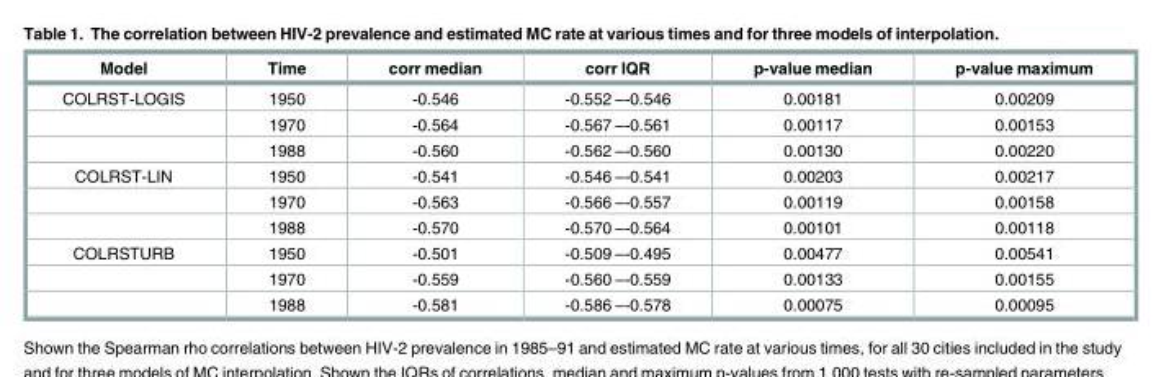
<table><thead><tr><td>Model</td><td>Time</td><td>corr median</td><td>corr IQR</td><td>p-value median</td><td>p-value maximum</td></tr></thead><tbody><tr><td rowspan="3">COLRST-LOGIS</td><td>1950</td><td>-0.546</td><td>-0.552 –-0.546</td><td>0.00181</td><td>0.00209</td></tr><tr><td>1970</td><td>-0.564</td><td>-0.567 –-0.561</td><td>0.00117</td><td>0.00153</td></tr><tr><td>1988</td><td>-0.560</td><td>-0.562 –-0.560</td><td>0.00130</td><td>0.00220</td></tr><tr><td rowspan="3">COLRST-LIN</td><td>1950</td><td>-0.541</td><td>-0.546 –-0.541</td><td>0.00203</td><td>0.00217</td></tr><tr><td>1970</td><td>-0.563</td><td>-0.566 –-0.557</td><td>0.00119</td><td>0.00158</td></tr><tr><td>1988</td><td>-0.570</td><td>-0.570 –-0.564</td><td>0.00101</td><td>0.00118</td></tr><tr><td rowspan="3">COLRSTURB</td><td>1950</td><td>-0.501</td><td>-0.509 –-0.495</td><td>0.00477</td><td>0.00541</td></tr><tr><td>1970</td><td>-0.559</td><td>-0.560 –-0.559</td><td>0.00133</td><td>0.00155</td></tr><tr><td>1988</td><td>-0.581</td><td>-0.586 –-0.578</td><td>0.00075</td><td>0.00095</td></tr></tbody></table>